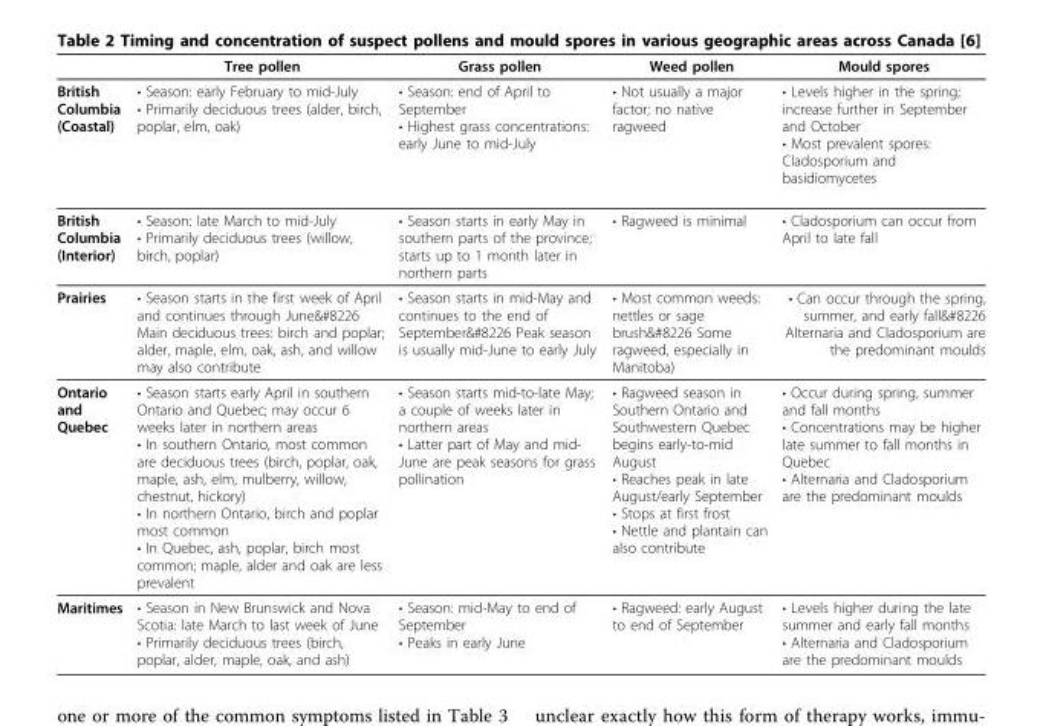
<table><thead><tr><td></td><td>Tree pollen</td><td>Grass pollen</td><td>Weed pollen</td><td>Mould spores</td></tr></thead><tbody><tr><td>British Columbia (Coastal)</td><td>• Season: early February to mid-July • Primarily deciduous trees (alder, birch, poplar, elm, oak)</td><td>• Season: end of April to September • Highest grass concentrations: early June to mid-July</td><td>• Not usually a major factor; no native ragweed</td><td>• Levels higher in the spring; increase further in September and October • Most prevalent spores: Cladosporium and basidiomycetes</td></tr><tr><td>British Columbia (Interior)</td><td>• Season: late March to mid-July • Primarily deciduous trees (willow, birch, poplar)</td><td>• Season starts in early May in southern parts of the province; starts up to 1 month later in northern parts</td><td>• Ragweed is minimal</td><td>• Cladosporium can occur from April to late fall</td></tr><tr><td>Prairies</td><td>• Season starts in the first week of April and continues through June&amp;#8226 Main deciduous trees: birch and poplar; alder, maple, elm, oak, ash, and willow may also contribute</td><td>• Season starts in mid‐May and continues to the end of September&amp;#8226 Peak season is usually mid‐June to early July</td><td>• Most common weeds: nettles or sage brush&amp;#8226 Some ragweed, especially in Manitoba)</td><td>• Can occur through the spring, summer, and early fall&amp;#8226 Alternaria and Cladosporium are the predominant moulds</td></tr><tr><td>Ontario and Quebec</td><td>• Season starts early April in southern Ontario and Quebec; may occur 6 weeks later in northern areas • In southern Ontario, most common are deciduous trees (birch, poplar, oak, maple, ash, elm, mulberry, willow, chestnut, hickory) • In northern Ontario, birch and poplar most common • In Quebec, ash, poplar, birch most common; maple, alder and oak are less prevalent</td><td>• Season starts mid-to-late May; a couple of weeks later in northern areas • Latter part of May and mid- June are peak seasons for grass pollination</td><td>• Ragweed season in Southern Ontario and Southwestern Quebec begins early-to-mid August • Reaches peak in late August/early September • Stops at first frost • Nettle and plantain can also contribute</td><td>• Occur during spring, summer and fall months • Concentrations may be higher late summer to fall months in Quebec • Alternaria and Cladosporium are the predominant moulds</td></tr><tr><td>Maritimes</td><td>• Season in New Brunswick and Nova Scotia: late March to last week of June • Primarily deciduous trees (birch, poplar, alder, maple, oak, and ash)</td><td>• Season: mid-May to end of September • Peaks in early June</td><td>• Ragweed: early August to end of September</td><td>• Levels higher during the late summer and early fall months • Alternaria and Cladosporium are the predominant moulds</td></tr></tbody></table>